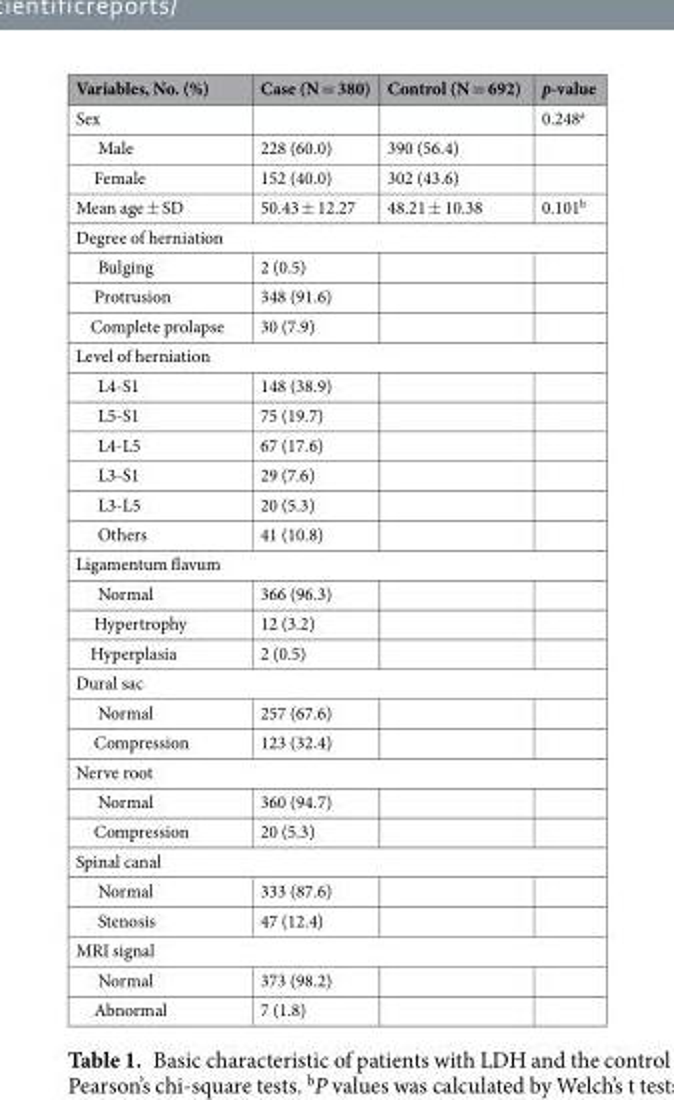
<table><thead><tr><td>Variables, No. (%)</td><td>Case (N = 380)</td><td>Control (N = 692)</td><td>p-value</td></tr></thead><tbody><tr><td>Sex</td><td></td><td></td><td>0.248<sup>a</sup></td></tr><tr><td>Male</td><td>228 (60.0)</td><td>390 (56.4)</td><td></td></tr><tr><td>Female</td><td>152 (40.0)</td><td>302 (43.6)</td><td></td></tr><tr><td>Mean age ± SD</td><td>50.43 ± 12.27</td><td>48.21 ± 10.38</td><td>0.101<sup>b</sup></td></tr><tr><td colspan="4">Degree of herniation</td></tr><tr><td>Bulging</td><td>2 (0.5)</td><td></td><td></td></tr><tr><td>Protrusion</td><td>348 (91.6)</td><td></td><td></td></tr><tr><td>Complete prolapse</td><td>30 (7.9)</td><td></td><td></td></tr><tr><td colspan="4">Level of herniation</td></tr><tr><td>L4-S1</td><td>148 (38.9)</td><td></td><td></td></tr><tr><td>L5-S1</td><td>75 (19.7)</td><td></td><td></td></tr><tr><td>L4-L5</td><td>67 (17.6)</td><td></td><td></td></tr><tr><td>L3-S1</td><td>29 (7.6)</td><td></td><td></td></tr><tr><td>L3-L5</td><td>20 (5.3)</td><td></td><td></td></tr><tr><td>Others</td><td>41 (10.8)</td><td></td><td></td></tr><tr><td colspan="4">Ligamentum flavum</td></tr><tr><td>Normal</td><td>366 (96.3)</td><td></td><td></td></tr><tr><td>Hypertrophy</td><td>12 (3.2)</td><td></td><td></td></tr><tr><td>Hyperplasia</td><td>2 (0.5)</td><td></td><td></td></tr><tr><td colspan="4">Dural sac</td></tr><tr><td>Normal</td><td>257 (67.6)</td><td></td><td></td></tr><tr><td>Compression</td><td>123 (32.4)</td><td></td><td></td></tr><tr><td colspan="4">Nerve root</td></tr><tr><td>Normal</td><td>360 (94.7)</td><td></td><td></td></tr><tr><td>Compression</td><td>20 (5.3)</td><td></td><td></td></tr><tr><td colspan="4">Spinal canal</td></tr><tr><td>Normal</td><td>333 (87.6)</td><td></td><td></td></tr><tr><td>Stenosis</td><td>47 (12.4)</td><td></td><td></td></tr><tr><td colspan="4">MRI signal</td></tr><tr><td>Normal</td><td>373 (98.2)</td><td></td><td></td></tr><tr><td>Abnormal</td><td>7 (1.8)</td><td></td><td></td></tr></tbody></table>